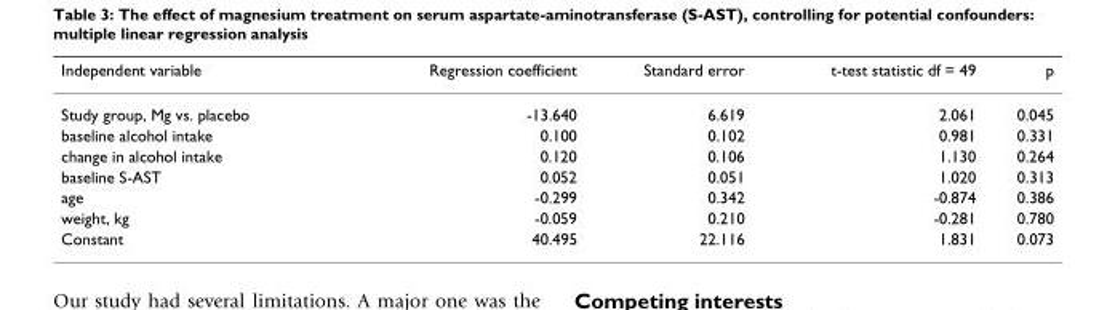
<table><thead><tr><td>Independent variable</td><td>Regression coefficient</td><td>Standard error</td><td>t-test statistic df = 49</td><td>p</td></tr></thead><tbody><tr><td>Study group, Mg vs. placebo</td><td>-13.640</td><td>6.619</td><td>2.061</td><td>0.045</td></tr><tr><td>baseline alcohol intake</td><td>0.100</td><td>0.102</td><td>0.981</td><td>0.331</td></tr><tr><td>change in alcohol intake</td><td>0.120</td><td>0.106</td><td>1.130</td><td>0.264</td></tr><tr><td>baseline S-AST</td><td>0.052</td><td>0.051</td><td>1.020</td><td>0.313</td></tr><tr><td>age</td><td>-0.299</td><td>0.342</td><td>-0.874</td><td>0.386</td></tr><tr><td>weight, kg</td><td>-0.059</td><td>0.210</td><td>-0.281</td><td>0.780</td></tr><tr><td>Constant</td><td>40.495</td><td>22.116</td><td>1.831</td><td>0.073</td></tr></tbody></table>